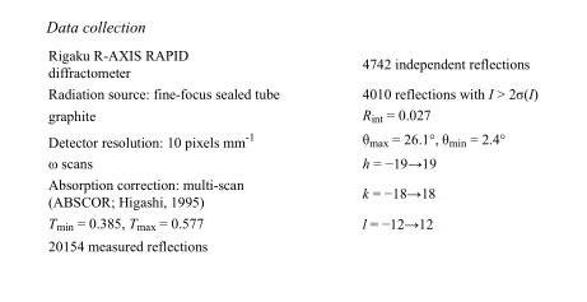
<table><tbody><tr><td>Rigaku R-AXIS RAPID diffractometer</td><td>4742 independent reflections</td></tr><tr><td>Radiation source: fine-focus sealed tube</td><td>4010 reflections with I &gt; 2σ(I)</td></tr><tr><td>graphite</td><td>R<sub>int</sub> = 0.027</td></tr><tr><td>Detector resolution: 10 pixels mm<sup>-1</sup></td><td>θ<sub>max</sub> = 26.1°, θ<sub>min</sub> = 2.4°</td></tr><tr><td>ω scans</td><td>h = −19→19</td></tr><tr><td>Absorption correction: multi-scan (ABSCOR; Higashi, 1995)</td><td>k = −18→18</td></tr><tr><td>T<sub>min</sub> = 0.385, T<sub>max</sub> = 0.577</td><td>l = −12→12</td></tr><tr><td>20154 measured reflections</td><td></td></tr></tbody></table>